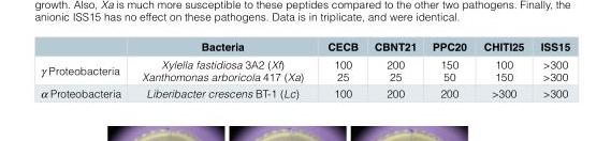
<table><thead><tr><td></td><td>Bacteria</td><td>CECB</td><td>CBNT21</td><td>PPC20</td><td>CHITI25</td><td>ISS15</td></tr></thead><tbody><tr><td>γ Proteobacteria</td><td>Xylella fastidiosa 3A2 (Xf) Xanthomonas arboricola 417 (Xa)</td><td>100 25</td><td>200 25</td><td>150 50</td><td>100 150</td><td>&gt;300 &gt;300</td></tr><tr><td>α Proteobacteria</td><td>Liberibacter crescens BT-1 (Lc)</td><td>100</td><td>200</td><td>200</td><td>&gt;300</td><td>&gt;300</td></tr></tbody></table>